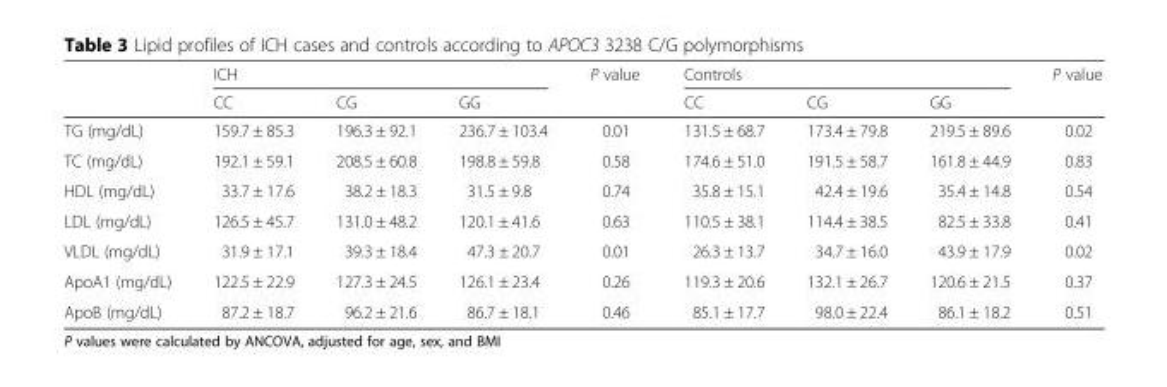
<table><thead><tr><td rowspan="2"></td><td colspan="3">ICH</td><td rowspan="2">P value</td><td colspan="3">Controls</td><td rowspan="2">P value</td></tr><tr><td>CC</td><td>CG</td><td>GG</td><td>CC</td><td>CG</td><td>GG</td></tr></thead><tbody><tr><td>TG (mg/dL)</td><td>159.7 ± 85.3</td><td>196.3 ± 92.1</td><td>236.7 ± 103.4</td><td>0.01</td><td>131.5 ± 68.7</td><td>173.4 ± 79.8</td><td>219.5 ± 89.6</td><td>0.02</td></tr><tr><td>TC (mg/dL)</td><td>192.1 ± 59.1</td><td>208.5 ± 60.8</td><td>198.8 ± 59.8</td><td>0.58</td><td>174.6 ± 51.0</td><td>191.5 ± 58.7</td><td>161.8 ± 44.9</td><td>0.83</td></tr><tr><td>HDL (mg/dL)</td><td>33.7 ± 17.6</td><td>38.2 ± 18.3</td><td>31.5 ± 9.8</td><td>0.74</td><td>35.8 ± 15.1</td><td>42.4 ± 19.6</td><td>35.4 ± 14.8</td><td>0.54</td></tr><tr><td>LDL (mg/dL)</td><td>126.5 ± 45.7</td><td>131.0 ± 48.2</td><td>120.1 ± 41.6</td><td>0.63</td><td>110.5 ± 38.1</td><td>114.4 ± 38.5</td><td>82.5 ± 33.8</td><td>0.41</td></tr><tr><td>VLDL (mg/dL)</td><td>31.9 ± 17.1</td><td>39.3 ± 18.4</td><td>47.3 ± 20.7</td><td>0.01</td><td>26.3 ± 13.7</td><td>34.7 ± 16.0</td><td>43.9 ± 17.9</td><td>0.02</td></tr><tr><td>ApoA1 (mg/dL)</td><td>122.5 ± 22.9</td><td>127.3 ± 24.5</td><td>126.1 ± 23.4</td><td>0.26</td><td>119.3 ± 20.6</td><td>132.1 ± 26.7</td><td>120.6 ± 21.5</td><td>0.37</td></tr><tr><td>ApoB (mg/dL)</td><td>87.2 ± 18.7</td><td>96.2 ± 21.6</td><td>86.7 ± 18.1</td><td>0.46</td><td>85.1 ± 17.7</td><td>98.0 ± 22.4</td><td>86.1 ± 18.2</td><td>0.51</td></tr></tbody></table>